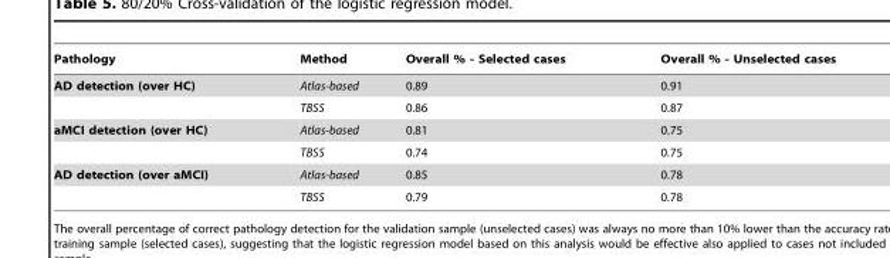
<table><thead><tr><td>Pathology</td><td>Method</td><td>Overall % - Selected cases</td><td>Overall % - Unselected cases</td></tr></thead><tbody><tr><td rowspan="2">AD detection (over HC)</td><td>Atlas-based</td><td>0.89</td><td>0.91</td></tr><tr><td>TBSS</td><td>0.86</td><td>0.87</td></tr><tr><td rowspan="2">aMCI detection (over HC)</td><td>Atlas-based</td><td>0.81</td><td>0.75</td></tr><tr><td>TBSS</td><td>0.74</td><td>0.75</td></tr><tr><td rowspan="2">AD detection (over aMCI)</td><td>Atlas-based</td><td>0.85</td><td>0.78</td></tr><tr><td>TBSS</td><td>0.79</td><td>0.78</td></tr></tbody></table>